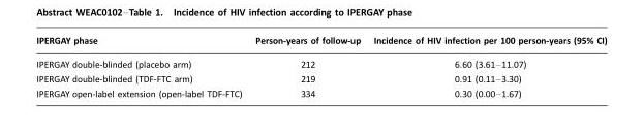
<table><thead><tr><td>IPERGAY phase</td><td>Person-years of follow-up</td><td>Incidence of HIV infection per 100 person-years (95% CI)</td></tr></thead><tbody><tr><td>IPERGAY double-blinded (placebo arm)</td><td>212</td><td>6.60 (3.61–11.07)</td></tr><tr><td>IPERGAY double-blinded (TDF-FTC arm)</td><td>219</td><td>0.91 (0.11–3.30)</td></tr><tr><td>IPERGAY open-label extension (open-label TDF-FTC)</td><td>334</td><td>0.30 (0.00–1.67)</td></tr></tbody></table>